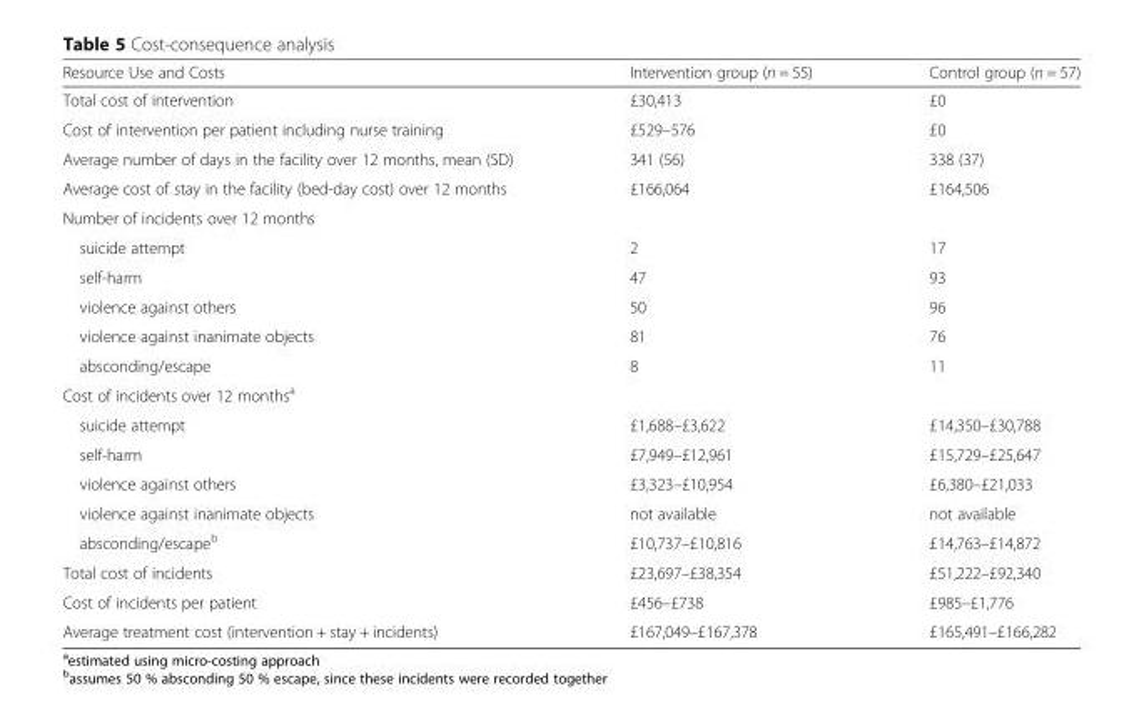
<table><thead><tr><td>Resource Use and Costs</td><td>Intervention group (n = 55)</td><td>Control group (n = 57)</td></tr></thead><tbody><tr><td>Total cost of intervention</td><td>£30,413</td><td>£0</td></tr><tr><td>Cost of intervention per patient including nurse training</td><td>£529–576</td><td>£0</td></tr><tr><td>Average number of days in the facility over 12 months, mean (SD)</td><td>341 (56)</td><td>338 (37)</td></tr><tr><td>Average cost of stay in the facility (bed-day cost) over 12 months</td><td>£166,064</td><td>£164,506</td></tr><tr><td colspan="3">Number of incidents over 12 months</td></tr><tr><td>suicide attempt</td><td>2</td><td>17</td></tr><tr><td>self-harm</td><td>47</td><td>93</td></tr><tr><td>violence against others</td><td>50</td><td>96</td></tr><tr><td>violence against inanimate objects</td><td>81</td><td>76</td></tr><tr><td>absconding/escape</td><td>8</td><td>11</td></tr><tr><td colspan="3">Cost of incidents over 12 months<sup>a</sup></td></tr><tr><td>suicide attempt</td><td>£1,688–£3,622</td><td>£14,350–£30,788</td></tr><tr><td>self-harm</td><td>£7,949–£12,961</td><td>£15,729–£25,647</td></tr><tr><td>violence against others</td><td>£3,323–£10,954</td><td>£6,380–£21,033</td></tr><tr><td>violence against inanimate objects</td><td>not available</td><td>not available</td></tr><tr><td>absconding/escape<sup>b</sup></td><td>£10,737–£10,816</td><td>£14,763–£14,872</td></tr><tr><td>Total cost of incidents</td><td>£23,697–£38,354</td><td>£51,222–£92,340</td></tr><tr><td>Cost of incidents per patient</td><td>£456–£738</td><td>£985–£1,776</td></tr><tr><td>Average treatment cost (intervention + stay + incidents)</td><td>£167,049–£167,378</td><td>£165,491–£166,282</td></tr></tbody></table>